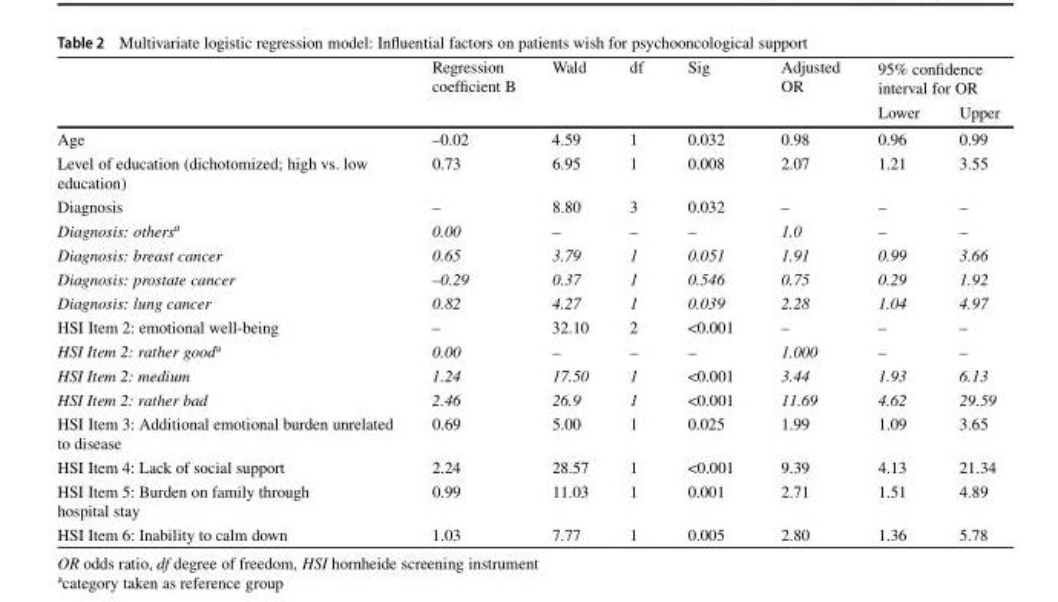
<table><thead><tr><td rowspan="2"></td><td rowspan="2">Regression coefficient B</td><td rowspan="2">Wald</td><td rowspan="2">df</td><td rowspan="2">Sig</td><td rowspan="2">Adjusted OR</td><td colspan="2">95% confidence interval for OR</td></tr><tr><td>Lower</td><td>Upper</td></tr></thead><tbody><tr><td>Age</td><td>–0.02</td><td>4.59</td><td>1</td><td>0.032</td><td>0.98</td><td>0.96</td><td>0.99</td></tr><tr><td>Level of education (dichotomized; high vs. low education)</td><td>0.73</td><td>6.95</td><td>1</td><td>0.008</td><td>2.07</td><td>1.21</td><td>3.55</td></tr><tr><td>Diagnosis</td><td>–</td><td>8.80</td><td>3</td><td>0.032</td><td>–</td><td>–</td><td>–</td></tr><tr><td>Diagnosis: others<sup>a</sup></td><td>0.00</td><td>–</td><td>–</td><td>–</td><td>1.0</td><td>–</td><td>–</td></tr><tr><td>Diagnosis: breast cancer</td><td>0.65</td><td>3.79</td><td>1</td><td>0.051</td><td>1.91</td><td>0.99</td><td>3.66</td></tr><tr><td>Diagnosis: prostate cancer</td><td>–0.29</td><td>0.37</td><td>1</td><td>0.546</td><td>0.75</td><td>0.29</td><td>1.92</td></tr><tr><td>Diagnosis: lung cancer</td><td>0.82</td><td>4.27</td><td>1</td><td>0.039</td><td>2.28</td><td>1.04</td><td>4.97</td></tr><tr><td>HSI Item 2: emotional well-being</td><td>–</td><td>32.10</td><td>2</td><td>&lt;0.001</td><td>–</td><td>–</td><td>–</td></tr><tr><td>HSI Item 2: rather good<sup>a</sup></td><td>0.00</td><td>–</td><td>–</td><td>–</td><td>1.000</td><td>–</td><td>–</td></tr><tr><td>HSI Item 2: medium</td><td>1.24</td><td>17.50</td><td>1</td><td>&lt;0.001</td><td>3.44</td><td>1.93</td><td>6.13</td></tr><tr><td>HSI Item 2: rather bad</td><td>2.46</td><td>26.9</td><td>1</td><td>&lt;0.001</td><td>11.69</td><td>4.62</td><td>29.59</td></tr><tr><td>HSI Item 3: Additional emotional burden unrelated to disease</td><td>0.69</td><td>5.00</td><td>1</td><td>0.025</td><td>1.99</td><td>1.09</td><td>3.65</td></tr><tr><td>HSI Item 4: Lack of social support</td><td>2.24</td><td>28.57</td><td>1</td><td>&lt;0.001</td><td>9.39</td><td>4.13</td><td>21.34</td></tr><tr><td>HSI Item 5: Burden on family through hospital stay</td><td>0.99</td><td>11.03</td><td>1</td><td>0.001</td><td>2.71</td><td>1.51</td><td>4.89</td></tr><tr><td>HSI Item 6: Inability to calm down</td><td>1.03</td><td>7.77</td><td>1</td><td>0.005</td><td>2.80</td><td>1.36</td><td>5.78</td></tr></tbody></table>